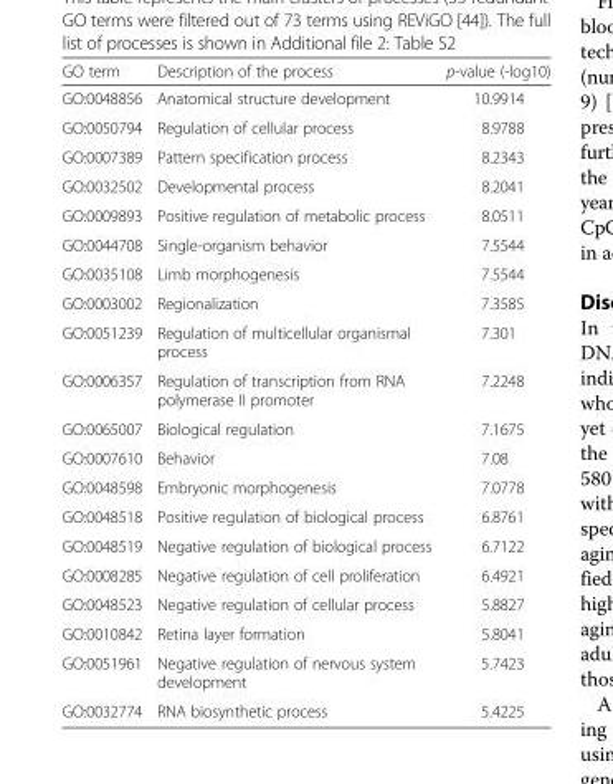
<table><thead><tr><td>GO term</td><td>Description of the process</td><td>p-value (-log10)</td></tr></thead><tbody><tr><td>GO:0048856</td><td>Anatomical structure development</td><td>10.9914</td></tr><tr><td>GO:0050794</td><td>Regulation of cellular process</td><td>8.9788</td></tr><tr><td>GO:0007389</td><td>Pattern specification process</td><td>8.2343</td></tr><tr><td>GO:0032502</td><td>Developmental process</td><td>8.2041</td></tr><tr><td>GO:0009893</td><td>Positive regulation of metabolic process</td><td>8.0511</td></tr><tr><td>GO:0044708</td><td>Single-organism behavior</td><td>7.5544</td></tr><tr><td>GO:0035108</td><td>Limb morphogenesis</td><td>7.5544</td></tr><tr><td>GO:0003002</td><td>Regionalization</td><td>7.3585</td></tr><tr><td>GO:0051239</td><td>Regulation of multicellular organismal process</td><td>7.301</td></tr><tr><td>GO:0006357</td><td>Regulation of transcription from RNA polymerase II promoter</td><td>7.2248</td></tr><tr><td>GO:0065007</td><td>Biological regulation</td><td>7.1675</td></tr><tr><td>GO:0007610</td><td>Behavior</td><td>7.08</td></tr><tr><td>GO:0048598</td><td>Embryonic morphogenesis</td><td>7.0778</td></tr><tr><td>GO:0048518</td><td>Positive regulation of biological process</td><td>6.8761</td></tr><tr><td>GO:0048519</td><td>Negative regulation of biological process</td><td>6.7122</td></tr><tr><td>GO:0008285</td><td>Negative regulation of cell proliferation</td><td>6.4921</td></tr><tr><td>GO:0048523</td><td>Negative regulation of cellular process</td><td>5.8827</td></tr><tr><td>GO:0010842</td><td>Retina layer formation</td><td>5.8041</td></tr><tr><td>GO:0051961</td><td>Negative regulation of nervous system development</td><td>5.7423</td></tr><tr><td>GO:0032774</td><td>RNA biosynthetic process</td><td>5.4225</td></tr></tbody></table>